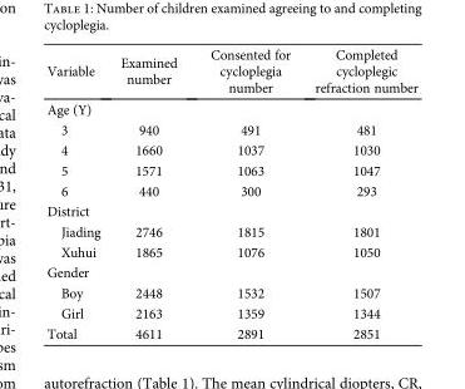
<table><thead><tr><td>Variable</td><td>Examined number</td><td>Consented for cycloplegia number</td><td>Completed cycloplegic refraction number</td></tr></thead><tbody><tr><td colspan="4">Age (Y)</td></tr><tr><td>3</td><td>940</td><td>491</td><td>481</td></tr><tr><td>4</td><td>1660</td><td>1037</td><td>1030</td></tr><tr><td>5</td><td>1571</td><td>1063</td><td>1047</td></tr><tr><td>6</td><td>440</td><td>300</td><td>293</td></tr><tr><td colspan="4">District</td></tr><tr><td>Jiading</td><td>2746</td><td>1815</td><td>1801</td></tr><tr><td>Xuhui</td><td>1865</td><td>1076</td><td>1050</td></tr><tr><td colspan="4">Gender</td></tr><tr><td>Boy</td><td>2448</td><td>1532</td><td>1507</td></tr><tr><td>Girl</td><td>2163</td><td>1359</td><td>1344</td></tr><tr><td>Total</td><td>4611</td><td>2891</td><td>2851</td></tr></tbody></table>